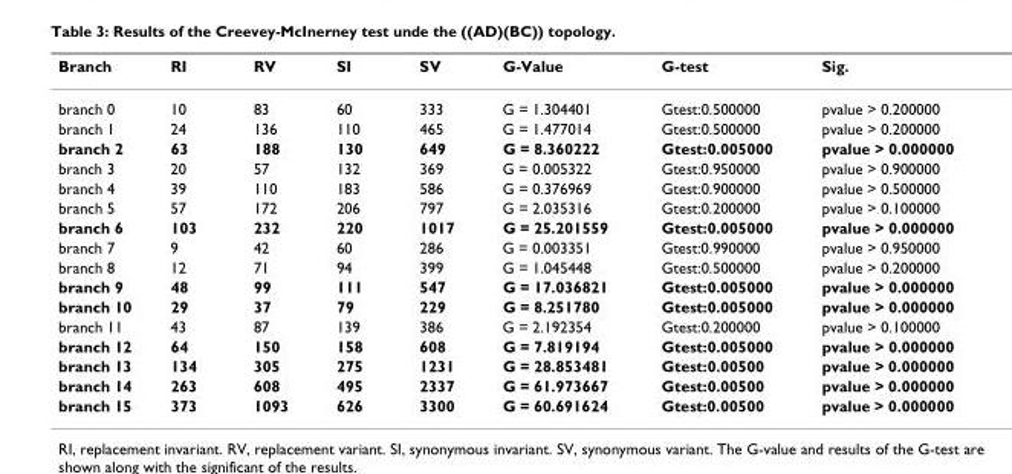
<table><thead><tr><td>Branch</td><td>RI</td><td>RV</td><td>SI</td><td>SV</td><td>G-Value</td><td>G-test</td><td>Sig.</td></tr></thead><tbody><tr><td>branch 0</td><td>10</td><td>83</td><td>60</td><td>333</td><td>G = 1.304401</td><td>Gtest:0.500000</td><td>pvalue &gt; 0.200000</td></tr><tr><td>branch 1</td><td>24</td><td>136</td><td>110</td><td>465</td><td>G = 1.477014</td><td>Gtest:0.500000</td><td>pvalue &gt; 0.200000</td></tr><tr><td>branch 2</td><td>63</td><td>188</td><td>130</td><td>649</td><td>G = 8.360222</td><td>Gtest:0.005000</td><td>pvalue &gt; 0.000000</td></tr><tr><td>branch 3</td><td>20</td><td>57</td><td>132</td><td>369</td><td>G = 0.005322</td><td>Gtest:0.950000</td><td>pvalue &gt; 0.900000</td></tr><tr><td>branch 4</td><td>39</td><td>110</td><td>183</td><td>586</td><td>G = 0.376969</td><td>Gtest:0.900000</td><td>pvalue &gt; 0.500000</td></tr><tr><td>branch 5</td><td>57</td><td>172</td><td>206</td><td>797</td><td>G = 2.035316</td><td>Gtest:0.200000</td><td>pvalue &gt; 0.100000</td></tr><tr><td>branch 6</td><td>103</td><td>232</td><td>220</td><td>1017</td><td>G = 25.201559</td><td>Gtest:0.005000</td><td>pvalue &gt; 0.000000</td></tr><tr><td>branch 7</td><td>9</td><td>42</td><td>60</td><td>286</td><td>G = 0.003351</td><td>Gtest:0.990000</td><td>pvalue &gt; 0.950000</td></tr><tr><td>branch 8</td><td>12</td><td>71</td><td>94</td><td>399</td><td>G = 1.045448</td><td>Gtest:0.500000</td><td>pvalue &gt; 0.200000</td></tr><tr><td>branch 9</td><td>48</td><td>99</td><td>111</td><td>547</td><td>G = 17.036821</td><td>Gtest:0.005000</td><td>pvalue &gt; 0.000000</td></tr><tr><td>branch 10</td><td>29</td><td>37</td><td>79</td><td>229</td><td>G = 8.251780</td><td>Gtest:0.005000</td><td>pvalue &gt; 0.000000</td></tr><tr><td>branch 11</td><td>43</td><td>87</td><td>139</td><td>386</td><td>G = 2.192354</td><td>Gtest:0.200000</td><td>pvalue &gt; 0.100000</td></tr><tr><td>branch 12</td><td>64</td><td>150</td><td>158</td><td>608</td><td>G = 7.819194</td><td>Gtest:0.005000</td><td>pvalue &gt; 0.000000</td></tr><tr><td>branch 13</td><td>134</td><td>305</td><td>275</td><td>1231</td><td>G = 28.853481</td><td>Gtest:0.00500</td><td>pvalue &gt; 0.000000</td></tr><tr><td>branch 14</td><td>263</td><td>608</td><td>495</td><td>2337</td><td>G = 61.973667</td><td>Gtest:0.00500</td><td>pvalue &gt; 0.000000</td></tr><tr><td>branch 15</td><td>373</td><td>1093</td><td>626</td><td>3300</td><td>G = 60.691624</td><td>Gtest:0.00500</td><td>pvalue &gt; 0.000000</td></tr></tbody></table>